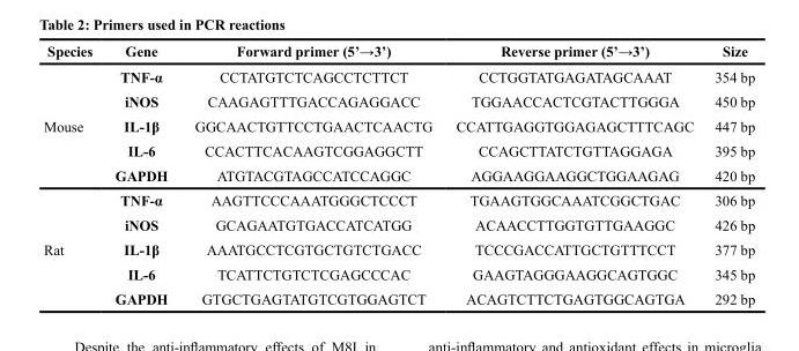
<table><thead><tr><td>Species</td><td>Gene</td><td>Forward primer (5’→3’)</td><td>Reverse primer (5’→3’)</td><td>Size</td></tr></thead><tbody><tr><td></td><td>TNF-α</td><td>CCTATGTCTCAGCCTCTTCT</td><td>CCTGGTATGAGATAGCAAAT</td><td>354 bp</td></tr><tr><td></td><td>iNOS</td><td>CAAGAGTTTGACCAGAGGACC</td><td>TGGAACCACTCGTACTTGGGA</td><td>450 bp</td></tr><tr><td rowspan="5">Mouse</td><td>IL-1β</td><td>GGCAACTGTTCCTGAACTCAACTG</td><td>CCATTGAGGTGGAGAGCTTTCAGC</td><td>447 bp</td></tr><tr><td>IL-6</td><td>CCACTTCACAAGTCGGAGGCTT</td><td>CCAGCTTATCTGTTAGGAGA</td><td>395 bp</td></tr><tr><td>GAPDH</td><td>ATGTACGTAGCCATCCAGGC</td><td>AGGAAGGAAGGCTGGAAGAG</td><td>420 bp</td></tr><tr><td>TNF-α</td><td>AAGTTCCCAAATGGGCTCCCT</td><td>TGAAGTGGCAAATCGGCTGAC</td><td>306 bp</td></tr><tr><td>iNOS</td><td>GCAGAATGTGACCATCATGG</td><td>ACAACCTTGGTGTTGAAGGC</td><td>426 bp</td></tr><tr><td rowspan="3">Rat</td><td>IL-1β</td><td>AAATGCCTCGTGCTGTCTGACC</td><td>TCCCGACCATTGCTGTTTCCT</td><td>377 bp</td></tr><tr><td>IL-6</td><td>TCATTCTGTCTCGAGCCCAC</td><td>GAAGTAGGGAAGGCAGTGGC</td><td>345 bp</td></tr><tr><td>GAPDH</td><td>GTGCTGAGTATGTCGTGGAGTCT</td><td>ACAGTCTTCTGAGTGGCAGTGA</td><td>292 bp</td></tr></tbody></table>